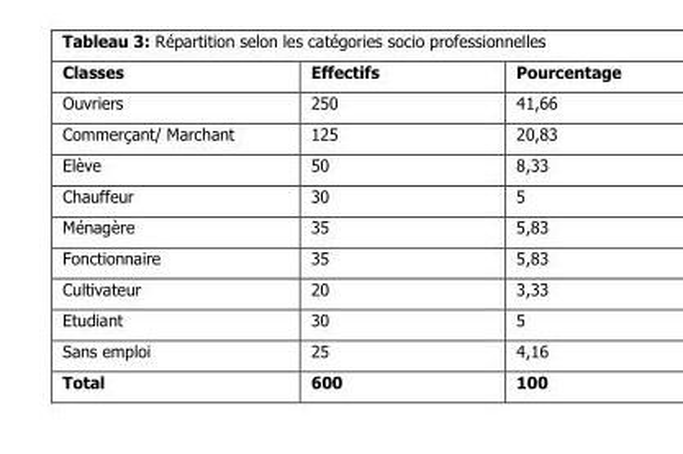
<table><thead><tr><td>Classes</td><td>Effectifs</td><td>Pourcentage</td></tr></thead><tbody><tr><td>Ouvriers</td><td>250</td><td>41,66</td></tr><tr><td>Commerçant/ Marchant</td><td>125</td><td>20,83</td></tr><tr><td>Elève</td><td>50</td><td>8,33</td></tr><tr><td>Chauffeur</td><td>30</td><td>5</td></tr><tr><td>Ménagère</td><td>35</td><td>5,83</td></tr><tr><td>Fonctionnaire</td><td>35</td><td>5,83</td></tr><tr><td>Cultivateur</td><td>20</td><td>3,33</td></tr><tr><td>Etudiant</td><td>30</td><td>5</td></tr><tr><td>Sans emploi</td><td>25</td><td>4,16</td></tr><tr><td>Total</td><td>600</td><td>100</td></tr></tbody></table>